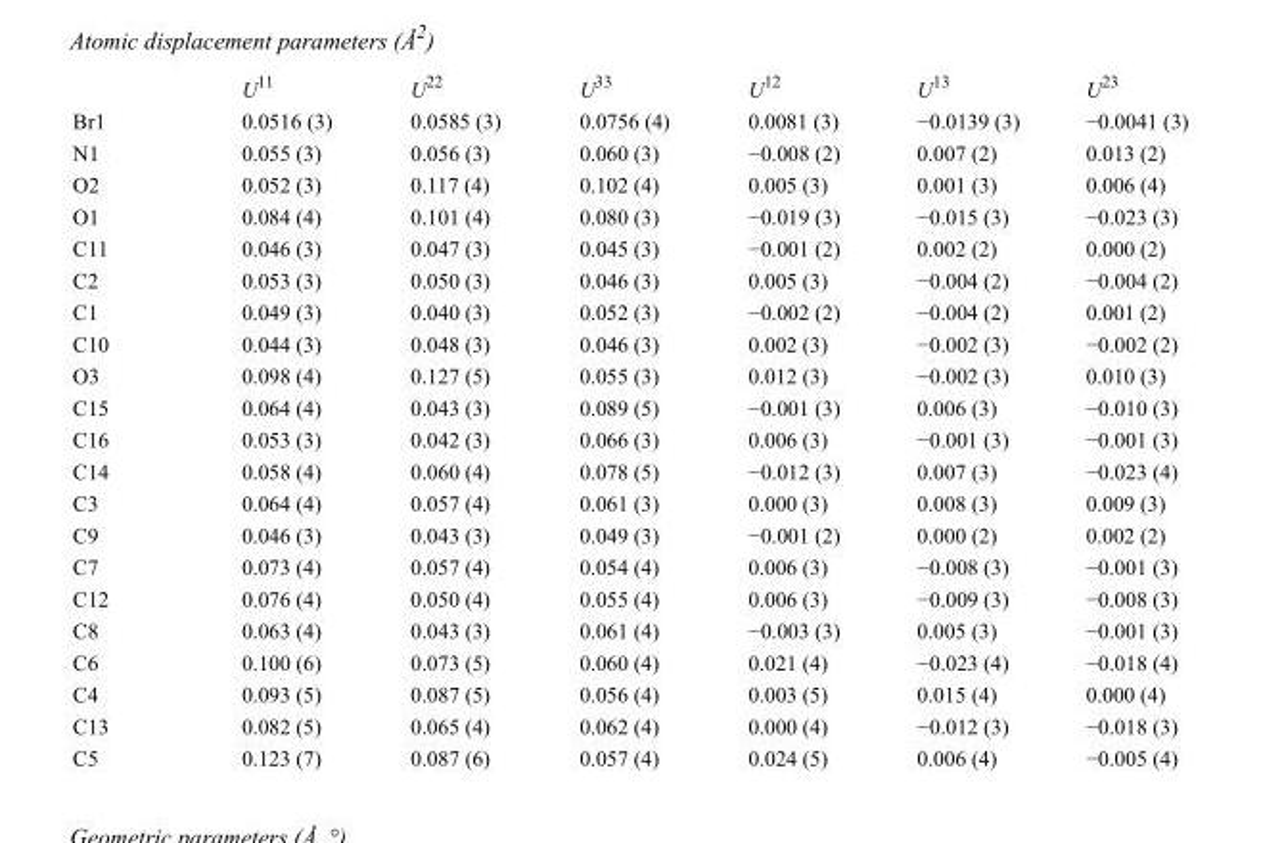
<table><thead><tr><td></td><td>U<sup>11</sup></td><td>U<sup>22</sup></td><td>U<sup>33</sup></td><td>U<sup>12</sup></td><td>U<sup>13</sup></td><td>U<sup>23</sup></td></tr></thead><tbody><tr><td>Br1</td><td>0.0516 (3)</td><td>0.0585 (3)</td><td>0.0756 (4)</td><td>0.0081 (3)</td><td>−0.0139 (3)</td><td>−0.0041 (3)</td></tr><tr><td>N1</td><td>0.055 (3)</td><td>0.056 (3)</td><td>0.060 (3)</td><td>−0.008 (2)</td><td>0.007 (2)</td><td>0.013 (2)</td></tr><tr><td>O2</td><td>0.052 (3)</td><td>0.117 (4)</td><td>0.102 (4)</td><td>0.005 (3)</td><td>0.001 (3)</td><td>0.006 (4)</td></tr><tr><td>O1</td><td>0.084 (4)</td><td>0.101 (4)</td><td>0.080 (3)</td><td>−0.019 (3)</td><td>−0.015 (3)</td><td>−0.023 (3)</td></tr><tr><td>C11</td><td>0.046 (3)</td><td>0.047 (3)</td><td>0.045 (3)</td><td>−0.001 (2)</td><td>0.002 (2)</td><td>0.000 (2)</td></tr><tr><td>C2</td><td>0.053 (3)</td><td>0.050 (3)</td><td>0.046 (3)</td><td>0.005 (3)</td><td>−0.004 (2)</td><td>−0.004 (2)</td></tr><tr><td>C1</td><td>0.049 (3)</td><td>0.040 (3)</td><td>0.052 (3)</td><td>−0.002 (2)</td><td>−0.004 (2)</td><td>0.001 (2)</td></tr><tr><td>C10</td><td>0.044 (3)</td><td>0.048 (3)</td><td>0.046 (3)</td><td>0.002 (3)</td><td>−0.002 (3)</td><td>−0.002 (2)</td></tr><tr><td>O3</td><td>0.098 (4)</td><td>0.127 (5)</td><td>0.055 (3)</td><td>0.012 (3)</td><td>−0.002 (3)</td><td>0.010 (3)</td></tr><tr><td>C15</td><td>0.064 (4)</td><td>0.043 (3)</td><td>0.089 (5)</td><td>−0.001 (3)</td><td>0.006 (3)</td><td>−0.010 (3)</td></tr><tr><td>C16</td><td>0.053 (3)</td><td>0.042 (3)</td><td>0.066 (3)</td><td>0.006 (3)</td><td>−0.001 (3)</td><td>−0.001 (3)</td></tr><tr><td>C14</td><td>0.058 (4)</td><td>0.060 (4)</td><td>0.078 (5)</td><td>−0.012 (3)</td><td>0.007 (3)</td><td>−0.023 (4)</td></tr><tr><td>C3</td><td>0.064 (4)</td><td>0.057 (4)</td><td>0.061 (3)</td><td>0.000 (3)</td><td>0.008 (3)</td><td>0.009 (3)</td></tr><tr><td>C9</td><td>0.046 (3)</td><td>0.043 (3)</td><td>0.049 (3)</td><td>−0.001 (2)</td><td>0.000 (2)</td><td>0.002 (2)</td></tr><tr><td>C7</td><td>0.073 (4)</td><td>0.057 (4)</td><td>0.054 (4)</td><td>0.006 (3)</td><td>−0.008 (3)</td><td>−0.001 (3)</td></tr><tr><td>C12</td><td>0.076 (4)</td><td>0.050 (4)</td><td>0.055 (4)</td><td>0.006 (3)</td><td>−0.009 (3)</td><td>−0.008 (3)</td></tr><tr><td>C8</td><td>0.063 (4)</td><td>0.043 (3)</td><td>0.061 (4)</td><td>−0.003 (3)</td><td>0.005 (3)</td><td>−0.001 (3)</td></tr><tr><td>C6</td><td>0.100 (6)</td><td>0.073 (5)</td><td>0.060 (4)</td><td>0.021 (4)</td><td>−0.023 (4)</td><td>−0.018 (4)</td></tr><tr><td>C4</td><td>0.093 (5)</td><td>0.087 (5)</td><td>0.056 (4)</td><td>0.003 (5)</td><td>0.015 (4)</td><td>0.000 (4)</td></tr><tr><td>C13</td><td>0.082 (5)</td><td>0.065 (4)</td><td>0.062 (4)</td><td>0.000 (4)</td><td>−0.012 (3)</td><td>−0.018 (3)</td></tr><tr><td>C5</td><td>0.123 (7)</td><td>0.087 (6)</td><td>0.057 (4)</td><td>0.024 (5)</td><td>0.006 (4)</td><td>−0.005 (4)</td></tr></tbody></table>